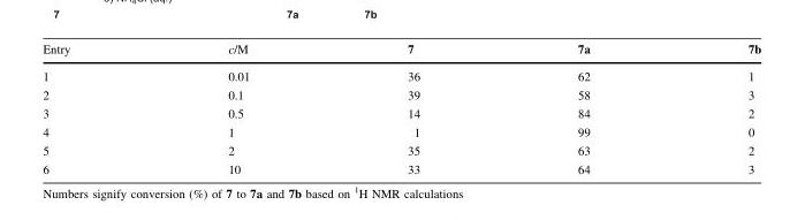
<table><thead><tr><td>Entry</td><td>c/M</td><td>7</td><td>7a</td><td>7b</td></tr></thead><tbody><tr><td>1</td><td>0.01</td><td>36</td><td>62</td><td>1</td></tr><tr><td>2</td><td>0.1</td><td>39</td><td>58</td><td>3</td></tr><tr><td>3</td><td>0.5</td><td>14</td><td>84</td><td>2</td></tr><tr><td>4</td><td>1</td><td>1</td><td>99</td><td>0</td></tr><tr><td>5</td><td>2</td><td>35</td><td>63</td><td>2</td></tr><tr><td>6</td><td>10</td><td>33</td><td>64</td><td>3</td></tr></tbody></table>